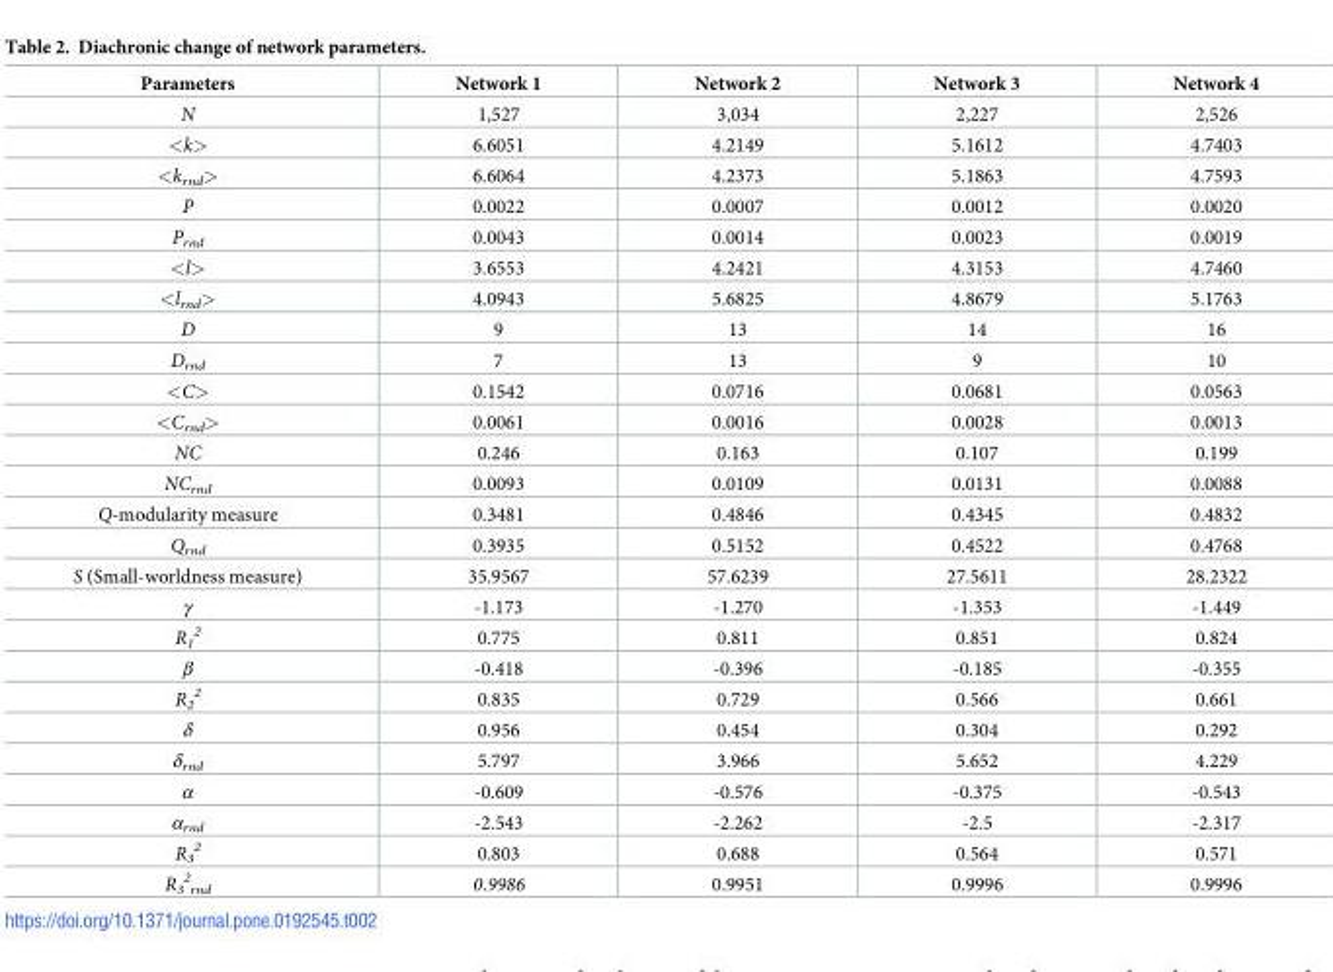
<table><thead><tr><td>Parameters</td><td>Network 1</td><td>Network 2</td><td>Network 3</td><td>Network 4</td></tr></thead><tbody><tr><td>N</td><td>1,527</td><td>3,034</td><td>2,227</td><td>2,526</td></tr><tr><td>&lt;k&gt;</td><td>6.6051</td><td>4.2149</td><td>5.1612</td><td>4.7403</td></tr><tr><td>&lt;k<sub>rnd</sub>&gt;</td><td>6.6064</td><td>4.2373</td><td>5.1863</td><td>4.7593</td></tr><tr><td>P</td><td>0.0022</td><td>0.0007</td><td>0.0012</td><td>0.0020</td></tr><tr><td>P<sub>rnd</sub></td><td>0.0043</td><td>0.0014</td><td>0.0023</td><td>0.0019</td></tr><tr><td>&lt;l&gt;</td><td>3.6553</td><td>4.2421</td><td>4.3153</td><td>4.7460</td></tr><tr><td>&lt;l<sub>rnd</sub>&gt;</td><td>4.0943</td><td>5.6825</td><td>4.8679</td><td>5.1763</td></tr><tr><td>D</td><td>9</td><td>13</td><td>14</td><td>16</td></tr><tr><td>D<sub>rnd</sub></td><td>7</td><td>13</td><td>9</td><td>10</td></tr><tr><td>&lt;C&gt;</td><td>0.1542</td><td>0.0716</td><td>0.0681</td><td>0.0563</td></tr><tr><td>&lt;C<sub>rnd</sub>&gt;</td><td>0.0061</td><td>0.0016</td><td>0.0028</td><td>0.0013</td></tr><tr><td>NC</td><td>0.246</td><td>0.163</td><td>0.107</td><td>0.199</td></tr><tr><td>NC<sub>rnd</sub></td><td>0.0093</td><td>0.0109</td><td>0.0131</td><td>0.0088</td></tr><tr><td>Q-modularity measure</td><td>0.3481</td><td>0.4846</td><td>0.4345</td><td>0.4832</td></tr><tr><td>Q<sub>rnd</sub></td><td>0.3935</td><td>0.5152</td><td>0.4522</td><td>0.4768</td></tr><tr><td>S (Small-worldness measure)</td><td>35.9567</td><td>57.6239</td><td>27.5611</td><td>28.2322</td></tr><tr><td>γ</td><td>-1.173</td><td>-1.270</td><td>-1.353</td><td>-1.449</td></tr><tr><td>R<sub>1</sub> <sup>2</sup></td><td>0.775</td><td>0.811</td><td>0.851</td><td>0.824</td></tr><tr><td>β</td><td>-0.418</td><td>-0.396</td><td>-0.185</td><td>-0.355</td></tr><tr><td>R<sub>2</sub> <sup>2</sup></td><td>0.835</td><td>0.729</td><td>0.566</td><td>0.661</td></tr><tr><td>δ</td><td>0.956</td><td>0.454</td><td>0.304</td><td>0.292</td></tr><tr><td>δ<sub>rnd</sub></td><td>5.797</td><td>3.966</td><td>5.652</td><td>4.229</td></tr><tr><td>α</td><td>-0.609</td><td>-0.576</td><td>-0.375</td><td>-0.543</td></tr><tr><td>α<sub>rnd</sub></td><td>-2.543</td><td>-2.262</td><td>-2.5</td><td>-2.317</td></tr><tr><td>R<sub>3</sub> <sup>2</sup></td><td>0.803</td><td>0.688</td><td>0.564</td><td>0.571</td></tr><tr><td>R<sub>3</sub> <sup>2</sup> <sub>rnd</sub></td><td>0.9986</td><td>0.9951</td><td>0.9996</td><td>0.9996</td></tr></tbody></table>